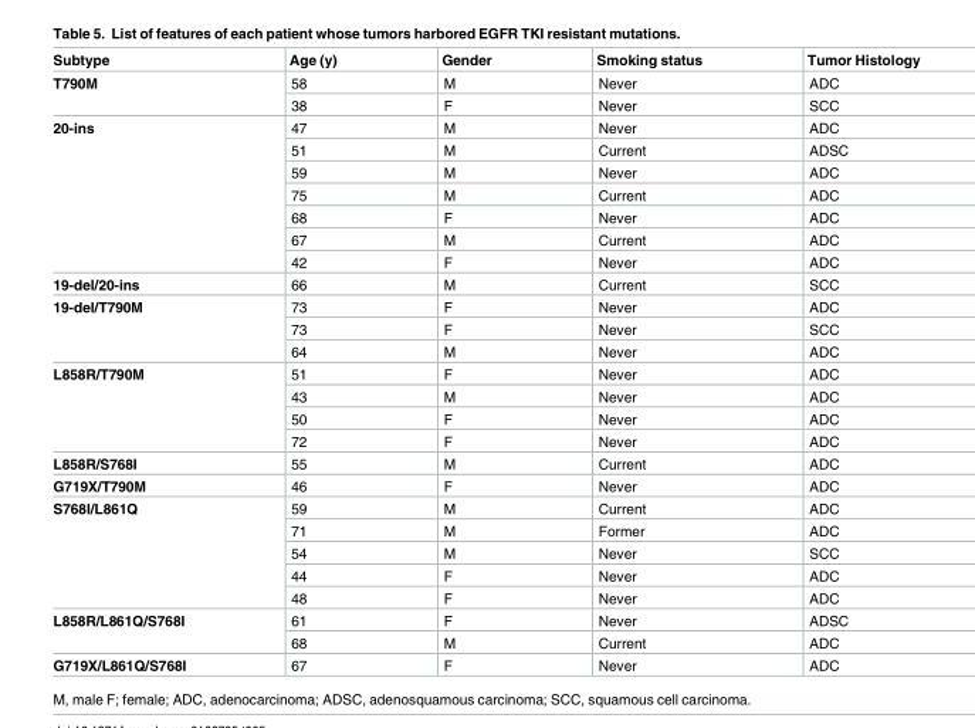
<table><thead><tr><td>Subtype</td><td>Age (y)</td><td>Gender</td><td>Smoking status</td><td>Tumor Histology</td></tr></thead><tbody><tr><td rowspan="2">T790M</td><td>58</td><td>M</td><td>Never</td><td>ADC</td></tr><tr><td>38</td><td>F</td><td>Never</td><td>SCC</td></tr><tr><td rowspan="7">20-ins</td><td>47</td><td>M</td><td>Never</td><td>ADC</td></tr><tr><td>51</td><td>M</td><td>Current</td><td>ADSC</td></tr><tr><td>59</td><td>M</td><td>Never</td><td>ADC</td></tr><tr><td>75</td><td>M</td><td>Current</td><td>ADC</td></tr><tr><td>68</td><td>F</td><td>Never</td><td>ADC</td></tr><tr><td>67</td><td>M</td><td>Current</td><td>ADC</td></tr><tr><td>42</td><td>F</td><td>Never</td><td>ADC</td></tr><tr><td>19-del/20-ins</td><td>66</td><td>M</td><td>Current</td><td>SCC</td></tr><tr><td rowspan="3">19-del/T790M</td><td>73</td><td>F</td><td>Never</td><td>ADC</td></tr><tr><td>73</td><td>F</td><td>Never</td><td>SCC</td></tr><tr><td>64</td><td>M</td><td>Never</td><td>ADC</td></tr><tr><td rowspan="4">L858R/T790M</td><td>51</td><td>F</td><td>Never</td><td>ADC</td></tr><tr><td>43</td><td>M</td><td>Never</td><td>ADC</td></tr><tr><td>50</td><td>F</td><td>Never</td><td>ADC</td></tr><tr><td>72</td><td>F</td><td>Never</td><td>ADC</td></tr><tr><td>L858R/S768I</td><td>55</td><td>M</td><td>Current</td><td>ADC</td></tr><tr><td>G719X/T790M</td><td>46</td><td>F</td><td>Never</td><td>ADC</td></tr><tr><td rowspan="5">S768I/L861Q</td><td>59</td><td>M</td><td>Current</td><td>ADC</td></tr><tr><td>71</td><td>M</td><td>Former</td><td>ADC</td></tr><tr><td>54</td><td>M</td><td>Never</td><td>SCC</td></tr><tr><td>44</td><td>F</td><td>Never</td><td>ADC</td></tr><tr><td>48</td><td>F</td><td>Never</td><td>ADC</td></tr><tr><td rowspan="2">L858R/L861Q/S768I</td><td>61</td><td>F</td><td>Never</td><td>ADSC</td></tr><tr><td>68</td><td>M</td><td>Current</td><td>ADC</td></tr><tr><td>G719X/L861Q/S768I</td><td>67</td><td>F</td><td>Never</td><td>ADC</td></tr></tbody></table>